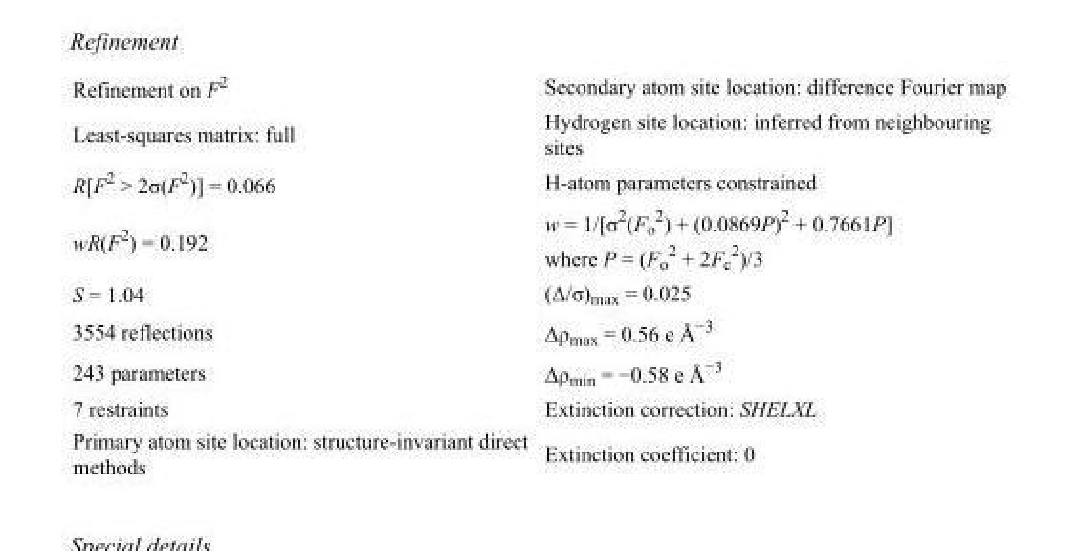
<table><tbody><tr><td>Refinement on F<sup>2</sup></td><td>Secondary atom site location: difference Fourier map</td></tr><tr><td>Least-squares matrix: full</td><td>Hydrogen site location: inferred from neighbouring sites</td></tr><tr><td>R[F<sup>2</sup> &gt; 2σ(F<sup>2</sup>)] = 0.066</td><td>H-atom parameters constrained</td></tr><tr><td>wR(F<sup>2</sup>) = 0.192</td><td>w = 1/[σ<sup>2</sup>(F<sub>o</sub> <sup>2</sup>) + (0.0869P)<sup>2</sup> + 0.7661P] where P = (F<sub>o</sub> <sup>2</sup> + 2F<sub>c</sub> <sup>2</sup>)/3</td></tr><tr><td>S = 1.04</td><td>(Δ/σ)<sub>max</sub> = 0.025</td></tr><tr><td>3554 reflections</td><td>Δρ<sub>max</sub> = 0.56 e Å<sup>−3</sup></td></tr><tr><td>243 parameters</td><td>Δρ<sub>min</sub> = −0.58 e Å<sup>−3</sup></td></tr><tr><td>7 restraints</td><td>Extinction correction: SHELXL</td></tr><tr><td>Primary atom site location: structure-invariant direct methods</td><td>Extinction coefficient: 0</td></tr></tbody></table>